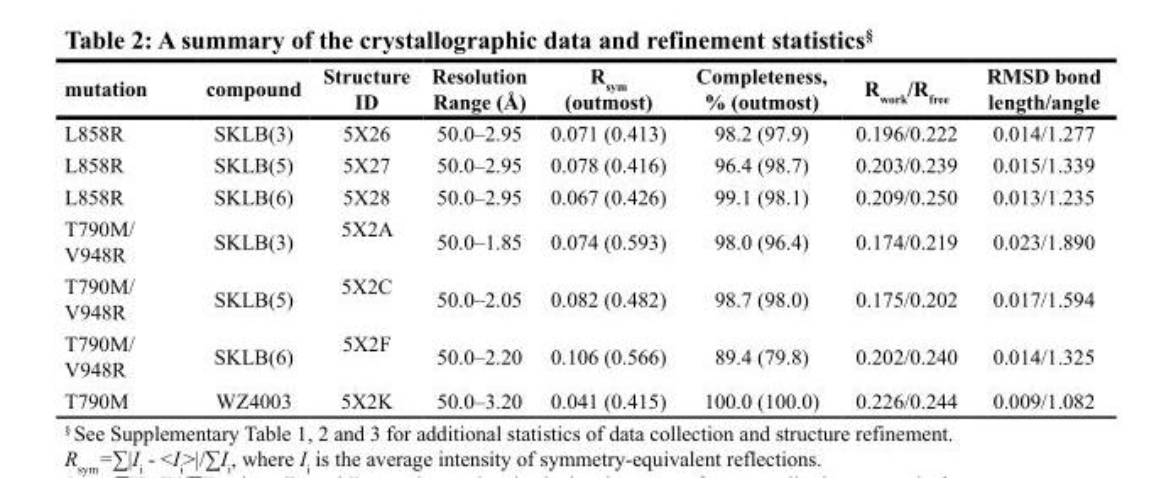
<table><thead><tr><td>mutation</td><td>compound</td><td>Structure ID</td><td>Resolution Range (Å)</td><td>R<sub>sym</sub> (outmost)</td><td>Completeness, % (outmost)</td><td>R<sub>work</sub>/R<sub>free</sub></td><td>RMSD bond length/angle</td></tr></thead><tbody><tr><td>L858R</td><td>SKLB(3)</td><td>5X26</td><td>50.0–2.95</td><td>0.071 (0.413)</td><td>98.2 (97.9)</td><td>0.196/0.222</td><td>0.014/1.277</td></tr><tr><td>L858R</td><td>SKLB(5)</td><td>5X27</td><td>50.0–2.95</td><td>0.078 (0.416)</td><td>96.4 (98.7)</td><td>0.203/0.239</td><td>0.015/1.339</td></tr><tr><td>L858R</td><td>SKLB(6)</td><td>5X28</td><td>50.0–2.95</td><td>0.067 (0.426)</td><td>99.1 (98.1)</td><td>0.209/0.250</td><td>0.013/1.235</td></tr><tr><td>T790M/ V948R</td><td>SKLB(3)</td><td>5X2A</td><td>50.0–1.85</td><td>0.074 (0.593)</td><td>98.0 (96.4)</td><td>0.174/0.219</td><td>0.023/1.890</td></tr><tr><td>T790M/ V948R</td><td>SKLB(5)</td><td>5X2C</td><td>50.0–2.05</td><td>0.082 (0.482)</td><td>98.7 (98.0)</td><td>0.175/0.202</td><td>0.017/1.594</td></tr><tr><td>T790M/ V948R</td><td>SKLB(6)</td><td>5X2F</td><td>50.0–2.20</td><td>0.106 (0.566)</td><td>89.4 (79.8)</td><td>0.202/0.240</td><td>0.014/1.325</td></tr><tr><td>T790M</td><td>WZ4003</td><td>5X2K</td><td>50.0–3.20</td><td>0.041 (0.415)</td><td>100.0 (100.0)</td><td>0.226/0.244</td><td>0.009/1.082</td></tr></tbody></table>